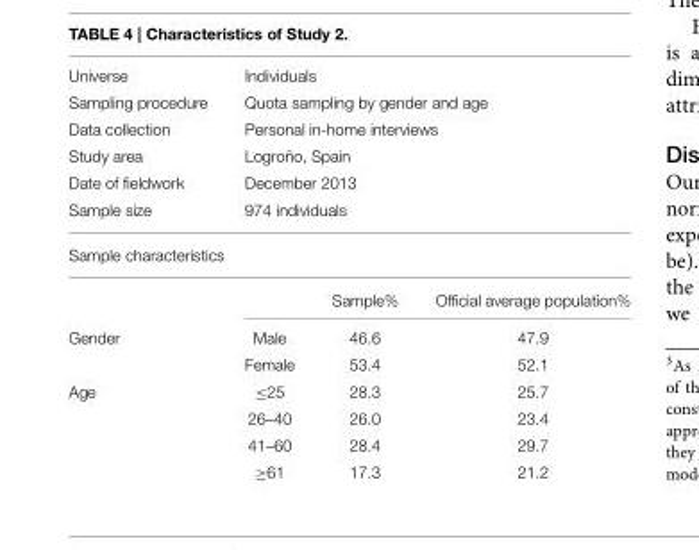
<table><tbody><tr><td>Universe</td><td colspan="3">Individuals</td></tr><tr><td>Sampling procedure</td><td colspan="3">Quota sampling by gender and age</td></tr><tr><td>Data collection</td><td colspan="3">Personal in-home interviews</td></tr><tr><td>Study area</td><td colspan="3">Logroño, Spain</td></tr><tr><td>Date of fieldwork</td><td colspan="3">December 2013</td></tr><tr><td>Sample size</td><td colspan="3">974 individuals</td></tr><tr><td colspan="4">Sample characteristics</td></tr><tr><td></td><td></td><td>Sample%</td><td>Official average population%</td></tr><tr><td rowspan="2">Gender</td><td>Male</td><td>46.6</td><td>47.9</td></tr><tr><td>Female</td><td>53.4</td><td>52.1</td></tr><tr><td rowspan="4">Age</td><td>≤25</td><td>28.3</td><td>25.7</td></tr><tr><td>26–40</td><td>26.0</td><td>23.4</td></tr><tr><td>41–60</td><td>28.4</td><td>29.7</td></tr><tr><td>≥61</td><td>17.3</td><td>21.2</td></tr></tbody></table>